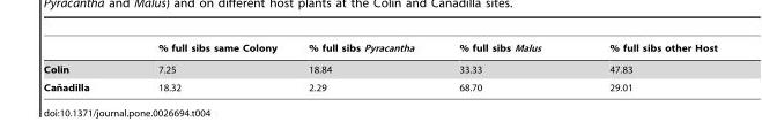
<table><thead><tr><td></td><td>% full sibs same Colony</td><td>% full sibs Pyracantha</td><td>% full sibs Malus</td><td>% full sibs other Host</td></tr></thead><tbody><tr><td>Colin</td><td>7.25</td><td>18.84</td><td>33.33</td><td>47.83</td></tr><tr><td>Can˜ adilla</td><td>18.32</td><td>2.29</td><td>68.70</td><td>29.01</td></tr></tbody></table>